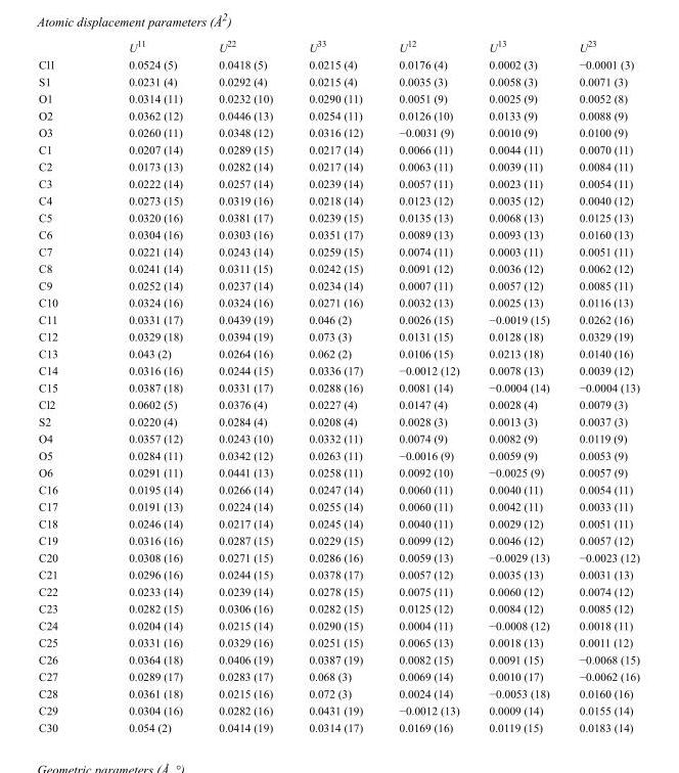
<table><thead><tr><td></td><td>U<sup>11</sup></td><td>U<sup>22</sup></td><td>U<sup>33</sup></td><td>U<sup>12</sup></td><td>U<sup>13</sup></td><td>U<sup>23</sup></td></tr></thead><tbody><tr><td>Cl1</td><td>0.0524 (5)</td><td>0.0418 (5)</td><td>0.0215 (4)</td><td>0.0176 (4)</td><td>0.0002 (3)</td><td>−0.0001 (3)</td></tr><tr><td>S1</td><td>0.0231 (4)</td><td>0.0292 (4)</td><td>0.0215 (4)</td><td>0.0035 (3)</td><td>0.0058 (3)</td><td>0.0071 (3)</td></tr><tr><td>O1</td><td>0.0314 (11)</td><td>0.0232 (10)</td><td>0.0290 (11)</td><td>0.0051 (9)</td><td>0.0025 (9)</td><td>0.0052 (8)</td></tr><tr><td>O2</td><td>0.0362 (12)</td><td>0.0446 (13)</td><td>0.0254 (11)</td><td>0.0126 (10)</td><td>0.0133 (9)</td><td>0.0088 (9)</td></tr><tr><td>O3</td><td>0.0260 (11)</td><td>0.0348 (12)</td><td>0.0316 (12)</td><td>−0.0031 (9)</td><td>0.0010 (9)</td><td>0.0100 (9)</td></tr><tr><td>C1</td><td>0.0207 (14)</td><td>0.0289 (15)</td><td>0.0217 (14)</td><td>0.0066 (11)</td><td>0.0044 (11)</td><td>0.0070 (11)</td></tr><tr><td>C2</td><td>0.0173 (13)</td><td>0.0282 (14)</td><td>0.0217 (14)</td><td>0.0063 (11)</td><td>0.0039 (11)</td><td>0.0084 (11)</td></tr><tr><td>C3</td><td>0.0222 (14)</td><td>0.0257 (14)</td><td>0.0239 (14)</td><td>0.0057 (11)</td><td>0.0023 (11)</td><td>0.0054 (11)</td></tr><tr><td>C4</td><td>0.0273 (15)</td><td>0.0319 (16)</td><td>0.0218 (14)</td><td>0.0123 (12)</td><td>0.0035 (12)</td><td>0.0040 (12)</td></tr><tr><td>C5</td><td>0.0320 (16)</td><td>0.0381 (17)</td><td>0.0239 (15)</td><td>0.0135 (13)</td><td>0.0068 (13)</td><td>0.0125 (13)</td></tr><tr><td>C6</td><td>0.0304 (16)</td><td>0.0303 (16)</td><td>0.0351 (17)</td><td>0.0089 (13)</td><td>0.0093 (13)</td><td>0.0160 (13)</td></tr><tr><td>C7</td><td>0.0221 (14)</td><td>0.0243 (14)</td><td>0.0259 (15)</td><td>0.0074 (11)</td><td>0.0003 (11)</td><td>0.0051 (11)</td></tr><tr><td>C8</td><td>0.0241 (14)</td><td>0.0311 (15)</td><td>0.0242 (15)</td><td>0.0091 (12)</td><td>0.0036 (12)</td><td>0.0062 (12)</td></tr><tr><td>C9</td><td>0.0252 (14)</td><td>0.0237 (14)</td><td>0.0234 (14)</td><td>0.0007 (11)</td><td>0.0057 (12)</td><td>0.0085 (11)</td></tr><tr><td>C10</td><td>0.0324 (16)</td><td>0.0324 (16)</td><td>0.0271 (16)</td><td>0.0032 (13)</td><td>0.0025 (13)</td><td>0.0116 (13)</td></tr><tr><td>C11</td><td>0.0331 (17)</td><td>0.0439 (19)</td><td>0.046 (2)</td><td>0.0026 (15)</td><td>−0.0019 (15)</td><td>0.0262 (16)</td></tr><tr><td>C12</td><td>0.0329 (18)</td><td>0.0394 (19)</td><td>0.073 (3)</td><td>0.0131 (15)</td><td>0.0128 (18)</td><td>0.0329 (19)</td></tr><tr><td>C13</td><td>0.043 (2)</td><td>0.0264 (16)</td><td>0.062 (2)</td><td>0.0106 (15)</td><td>0.0213 (18)</td><td>0.0140 (16)</td></tr><tr><td>C14</td><td>0.0316 (16)</td><td>0.0244 (15)</td><td>0.0336 (17)</td><td>−0.0012 (12)</td><td>0.0078 (13)</td><td>0.0039 (12)</td></tr><tr><td>C15</td><td>0.0387 (18)</td><td>0.0331 (17)</td><td>0.0288 (16)</td><td>0.0081 (14)</td><td>−0.0004 (14)</td><td>−0.0004 (13)</td></tr><tr><td>Cl2</td><td>0.0602 (5)</td><td>0.0376 (4)</td><td>0.0227 (4)</td><td>0.0147 (4)</td><td>0.0028 (4)</td><td>0.0079 (3)</td></tr><tr><td>S2</td><td>0.0220 (4)</td><td>0.0284 (4)</td><td>0.0208 (4)</td><td>0.0028 (3)</td><td>0.0013 (3)</td><td>0.0037 (3)</td></tr><tr><td>O4</td><td>0.0357 (12)</td><td>0.0243 (10)</td><td>0.0332 (11)</td><td>0.0074 (9)</td><td>0.0082 (9)</td><td>0.0119 (9)</td></tr><tr><td>O5</td><td>0.0284 (11)</td><td>0.0342 (12)</td><td>0.0263 (11)</td><td>−0.0016 (9)</td><td>0.0059 (9)</td><td>0.0053 (9)</td></tr><tr><td>O6</td><td>0.0291 (11)</td><td>0.0441 (13)</td><td>0.0258 (11)</td><td>0.0092 (10)</td><td>−0.0025 (9)</td><td>0.0057 (9)</td></tr><tr><td>C16</td><td>0.0195 (14)</td><td>0.0266 (14)</td><td>0.0247 (14)</td><td>0.0060 (11)</td><td>0.0040 (11)</td><td>0.0054 (11)</td></tr><tr><td>C17</td><td>0.0191 (13)</td><td>0.0224 (14)</td><td>0.0255 (14)</td><td>0.0060 (11)</td><td>0.0042 (11)</td><td>0.0033 (11)</td></tr><tr><td>C18</td><td>0.0246 (14)</td><td>0.0217 (14)</td><td>0.0245 (14)</td><td>0.0040 (11)</td><td>0.0029 (12)</td><td>0.0051 (11)</td></tr><tr><td>C19</td><td>0.0316 (16)</td><td>0.0287 (15)</td><td>0.0229 (15)</td><td>0.0099 (12)</td><td>0.0046 (12)</td><td>0.0057 (12)</td></tr><tr><td>C20</td><td>0.0308 (16)</td><td>0.0271 (15)</td><td>0.0286 (16)</td><td>0.0059 (13)</td><td>−0.0029 (13)</td><td>−0.0023 (12)</td></tr><tr><td>C21</td><td>0.0296 (16)</td><td>0.0244 (15)</td><td>0.0378 (17)</td><td>0.0057 (12)</td><td>0.0035 (13)</td><td>0.0031 (13)</td></tr><tr><td>C22</td><td>0.0233 (14)</td><td>0.0239 (14)</td><td>0.0278 (15)</td><td>0.0075 (11)</td><td>0.0060 (12)</td><td>0.0074 (12)</td></tr><tr><td>C23</td><td>0.0282 (15)</td><td>0.0306 (16)</td><td>0.0282 (15)</td><td>0.0125 (12)</td><td>0.0084 (12)</td><td>0.0085 (12)</td></tr><tr><td>C24</td><td>0.0204 (14)</td><td>0.0215 (14)</td><td>0.0290 (15)</td><td>0.0004 (11)</td><td>−0.0008 (12)</td><td>0.0018 (11)</td></tr><tr><td>C25</td><td>0.0331 (16)</td><td>0.0329 (16)</td><td>0.0251 (15)</td><td>0.0065 (13)</td><td>0.0018 (13)</td><td>0.0011 (12)</td></tr><tr><td>C26</td><td>0.0364 (18)</td><td>0.0406 (19)</td><td>0.0387 (19)</td><td>0.0082 (15)</td><td>0.0091 (15)</td><td>−0.0068 (15)</td></tr><tr><td>C27</td><td>0.0289 (17)</td><td>0.0283 (17)</td><td>0.068 (3)</td><td>0.0069 (14)</td><td>0.0010 (17)</td><td>−0.0062 (16)</td></tr><tr><td>C28</td><td>0.0361 (18)</td><td>0.0215 (16)</td><td>0.072 (3)</td><td>0.0024 (14)</td><td>−0.0053 (18)</td><td>0.0160 (16)</td></tr><tr><td>C29</td><td>0.0304 (16)</td><td>0.0282 (16)</td><td>0.0431 (19)</td><td>−0.0012 (13)</td><td>0.0009 (14)</td><td>0.0155 (14)</td></tr><tr><td>C30</td><td>0.054 (2)</td><td>0.0414 (19)</td><td>0.0314 (17)</td><td>0.0169 (16)</td><td>0.0119 (15)</td><td>0.0183 (14)</td></tr></tbody></table>